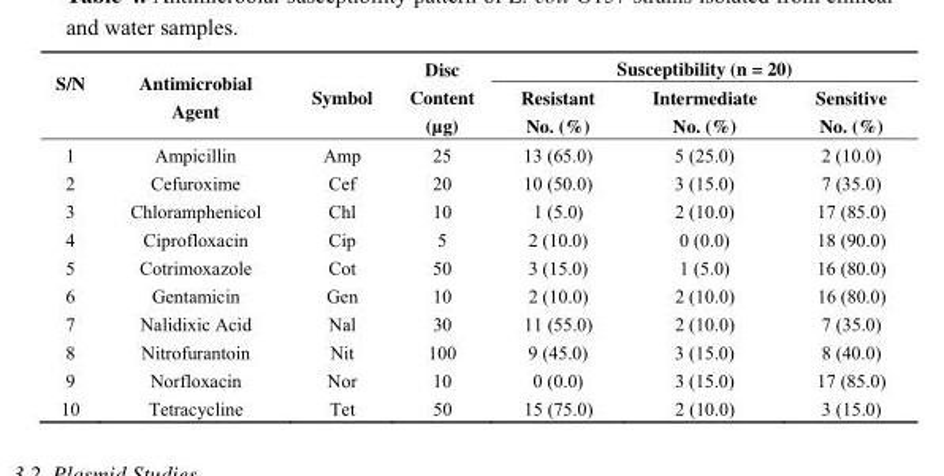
<table><thead><tr><td rowspan="2">S/N</td><td rowspan="2">Antimicrobial Agent</td><td rowspan="2">Symbol</td><td rowspan="2">Disc Content (µg)</td><td colspan="3">Susceptibility (n = 20)</td></tr><tr><td>Resistant No. (%)</td><td>Intermediate No. (%)</td><td>Sensitive No. (%)</td></tr></thead><tbody><tr><td>1</td><td>Ampicillin</td><td>Amp</td><td>25</td><td>13 (65.0)</td><td>5 (25.0)</td><td>2 (10.0)</td></tr><tr><td>2</td><td>Cefuroxime</td><td>Cef</td><td>20</td><td>10 (50.0)</td><td>3 (15.0)</td><td>7 (35.0)</td></tr><tr><td>3</td><td>Chloramphenicol</td><td>Chl</td><td>10</td><td>1 (5.0)</td><td>2 (10.0)</td><td>17 (85.0)</td></tr><tr><td>4</td><td>Ciprofloxacin</td><td>Cip</td><td>5</td><td>2 (10.0)</td><td>0 (0.0)</td><td>18 (90.0)</td></tr><tr><td>5</td><td>Cotrimoxazole</td><td>Cot</td><td>50</td><td>3 (15.0)</td><td>1 (5.0)</td><td>16 (80.0)</td></tr><tr><td>6</td><td>Gentamicin</td><td>Gen</td><td>10</td><td>2 (10.0)</td><td>2 (10.0)</td><td>16 (80.0)</td></tr><tr><td>7</td><td>Nalidixic Acid</td><td>Nal</td><td>30</td><td>11 (55.0)</td><td>2 (10.0)</td><td>7 (35.0)</td></tr><tr><td>8</td><td>Nitrofurantoin</td><td>Nit</td><td>100</td><td>9 (45.0)</td><td>3 (15.0)</td><td>8 (40.0)</td></tr><tr><td>9</td><td>Norfloxacin</td><td>Nor</td><td>10</td><td>0 (0.0)</td><td>3 (15.0)</td><td>17 (85.0)</td></tr><tr><td>10</td><td>Tetracycline</td><td>Tet</td><td>50</td><td>15 (75.0)</td><td>2 (10.0)</td><td>3 (15.0)</td></tr></tbody></table>